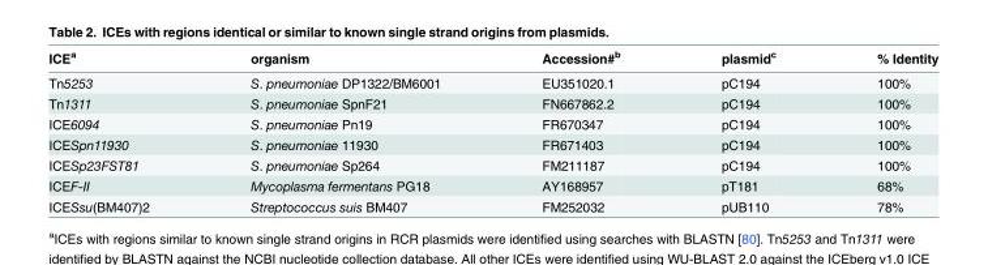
<table><thead><tr><td>ICE<sup>a</sup></td><td>organism</td><td>Accession#<sup>b</sup></td><td>plasmid<sup>c</sup></td><td>% Identity</td></tr></thead><tbody><tr><td>Tn5253</td><td>S. pneumoniae DP1322/BM6001</td><td>EU351020.1</td><td>pC194</td><td>100%</td></tr><tr><td>Tn1311</td><td>S. pneumoniae SpnF21</td><td>FN667862.2</td><td>pC194</td><td>100%</td></tr><tr><td>ICE6094</td><td>S. pneumoniae Pn19</td><td>FR670347</td><td>pC194</td><td>100%</td></tr><tr><td>ICESpn11930</td><td>S. pneumoniae 11930</td><td>FR671403</td><td>pC194</td><td>100%</td></tr><tr><td>ICESp23FST81</td><td>S. pneumoniae Sp264</td><td>FM211187</td><td>pC194</td><td>100%</td></tr><tr><td>ICEF-II</td><td>Mycoplasma fermentans PG18</td><td>AY168957</td><td>pT181</td><td>68%</td></tr><tr><td>ICESsu(BM407)2</td><td>Streptococcus suis BM407</td><td>FM252032</td><td>pUB110</td><td>78%</td></tr></tbody></table>